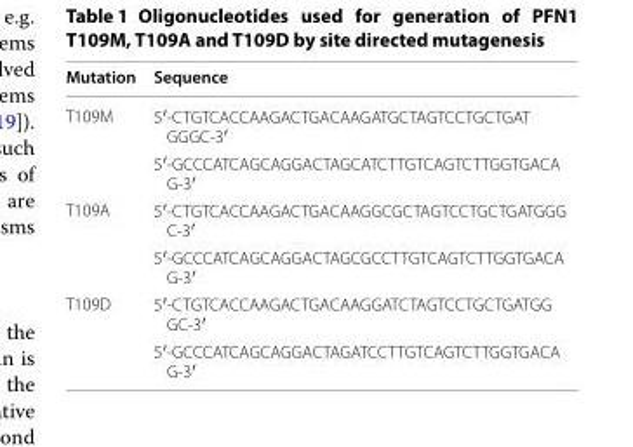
<table><thead><tr><td>Mutation</td><td>Sequence</td></tr></thead><tbody><tr><td rowspan="2">T109M</td><td>5′‑CTGTCACCAAGACTGACAAGATGCTAGTCCTGCTGAT GGGC‑3′</td></tr><tr><td>5′‑GCCCATCAGCAGGACTAGCATCTTGTCAGTCTTGGTGACA G‑3′</td></tr><tr><td rowspan="2">T109A</td><td>5′‑CTGTCACCAAGACTGACAAGGCGCTAGTCCTGCTGATGGG C‑3′</td></tr><tr><td>5′‑GCCCATCAGCAGGACTAGCGCCTTGTCAGTCTTGGTGACA G‑3′</td></tr><tr><td rowspan="2">T109D</td><td>5′‑CTGTCACCAAGACTGACAAGGATCTAGTCCTGCTGATGG GC‑3′</td></tr><tr><td>5′‑GCCCATCAGCAGGACTAGATCCTTGTCAGTCTTGGTGACA G‑3′</td></tr></tbody></table>